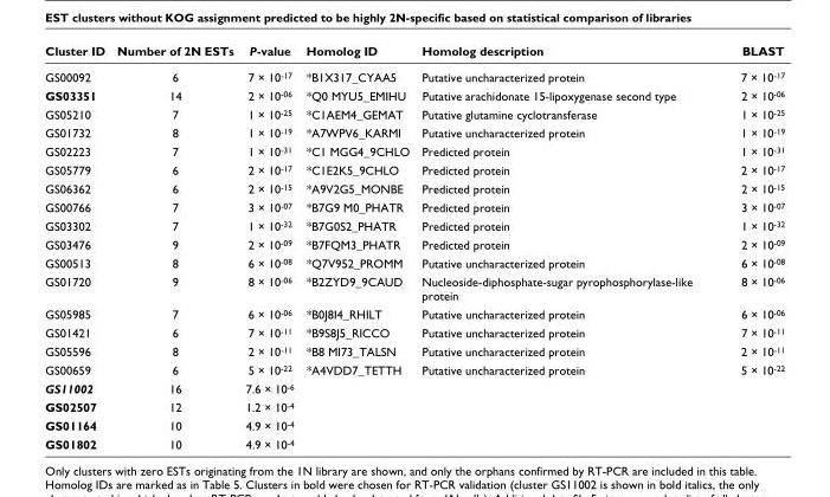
<table><thead><tr><td>Cluster ID</td><td>Number of 2N ESTs</td><td>P-value</td><td>Homolog ID</td><td>Homolog description</td><td>BLAST</td></tr></thead><tbody><tr><td>GS00092</td><td>6</td><td>7 × 10<sup>-17</sup></td><td>*B1X317_CYAA5</td><td>Putative uncharacterized protein</td><td>7 × 10<sup>-17</sup></td></tr><tr><td>GS03351</td><td>14</td><td>2 × 10<sup>-06</sup></td><td>*Q0 MYU5_EMIHU</td><td>Putative arachidonate 15-lipoxygenase second type</td><td>2 × 10<sup>-06</sup></td></tr><tr><td>GS05210</td><td>7</td><td>1 × 10<sup>-25</sup></td><td>*C1AEM4_GEMAT</td><td>Putative glutamine cyclotransferase</td><td>1 × 10<sup>-25</sup></td></tr><tr><td>GS01732</td><td>8</td><td>1 × 10<sup>-19</sup></td><td>*A7WPV6_KARMI</td><td>Putative uncharacterized protein</td><td>1 × 10<sup>-19</sup></td></tr><tr><td>GS02223</td><td>7</td><td>1 × 10<sup>-31</sup></td><td>*C1 MGG4_9CHLO</td><td>Predicted protein</td><td>1 × 10<sup>-31</sup></td></tr><tr><td>GS05779</td><td>6</td><td>2 × 10<sup>-17</sup></td><td>*C1E2K5_9CHLO</td><td>Predicted protein</td><td>2 × 10<sup>-17</sup></td></tr><tr><td>GS06362</td><td>6</td><td>2 × 10<sup>-15</sup></td><td>*A9V2G5_MONBE</td><td>Predicted protein</td><td>2 × 10<sup>-15</sup></td></tr><tr><td>GS00766</td><td>7</td><td>3 × 10<sup>-07</sup></td><td>*B7G9 M0_PHATR</td><td>Predicted protein</td><td>3 × 10<sup>-07</sup></td></tr><tr><td>GS03302</td><td>7</td><td>1 × 10<sup>-32</sup></td><td>*B7G0S2_PHATR</td><td>Predicted protein</td><td>1 × 10<sup>-32</sup></td></tr><tr><td>GS03476</td><td>9</td><td>2 × 10<sup>-09</sup></td><td>*B7FQM3_PHATR</td><td>Predicted protein</td><td>2 × 10<sup>-09</sup></td></tr><tr><td>GS00513</td><td>8</td><td>6 × 10<sup>-08</sup></td><td>*Q7V952_PROMM</td><td>Putative uncharacterized protein</td><td>6 × 10<sup>-08</sup></td></tr><tr><td>GS01720</td><td>9</td><td>8 × 10<sup>-06</sup></td><td>*B2ZYD9_9CAUD</td><td>Nucleoside-diphosphate-sugar pyrophosphorylase-like protein</td><td>8 × 10<sup>-06</sup></td></tr><tr><td>GS05985</td><td>7</td><td>6 × 10<sup>-06</sup></td><td>*B0J8I4_RHILT</td><td>Putative uncharacterized protein</td><td>6 × 10<sup>-06</sup></td></tr><tr><td>GS01421</td><td>6</td><td>7 × 10<sup>-11</sup></td><td>*B9S8J5_RICCO</td><td>Putative uncharacterized protein</td><td>7 × 10<sup>-11</sup></td></tr><tr><td>GS05596</td><td>8</td><td>2 × 10<sup>-11</sup></td><td>*B8 MI73_TALSN</td><td>Putative uncharacterized protein</td><td>2 × 10<sup>-11</sup></td></tr><tr><td>GS00659</td><td>6</td><td>5 × 10<sup>-22</sup></td><td>*A4VDD7_TETTH</td><td>Putative uncharacterized protein</td><td>5 × 10<sup>-22</sup></td></tr><tr><td>GS11002</td><td>16</td><td>7.6 × 10<sup>-6</sup></td><td></td><td></td><td></td></tr><tr><td>GS02507</td><td>12</td><td>1.2 × 10<sup>-4</sup></td><td></td><td></td><td></td></tr><tr><td>GS01164</td><td>10</td><td>4.9 × 10<sup>-4</sup></td><td></td><td></td><td></td></tr><tr><td>GS01802</td><td>10</td><td>4.9 × 10<sup>-4</sup></td><td></td><td></td><td></td></tr></tbody></table>